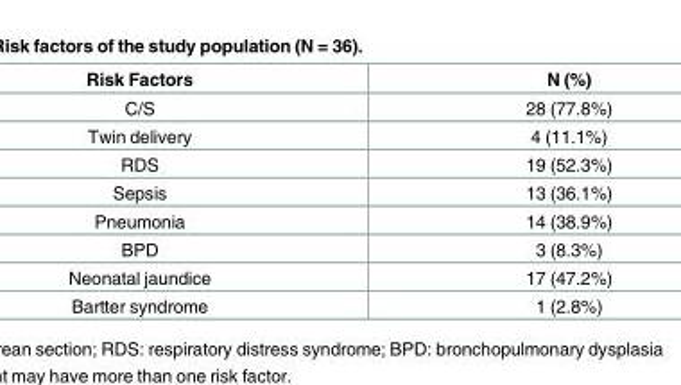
<table><thead><tr><td>Risk Factors</td><td>N (%)</td></tr></thead><tbody><tr><td>C/S</td><td>28 (77.8%)</td></tr><tr><td>Twin delivery</td><td>4 (11.1%)</td></tr><tr><td>RDS</td><td>19 (52.3%)</td></tr><tr><td>Sepsis</td><td>13 (36.1%)</td></tr><tr><td>Pneumonia</td><td>14 (38.9%)</td></tr><tr><td>BPD</td><td>3 (8.3%)</td></tr><tr><td>Neonatal jaundice</td><td>17 (47.2%)</td></tr><tr><td>Bartter syndrome</td><td>1 (2.8%)</td></tr></tbody></table>